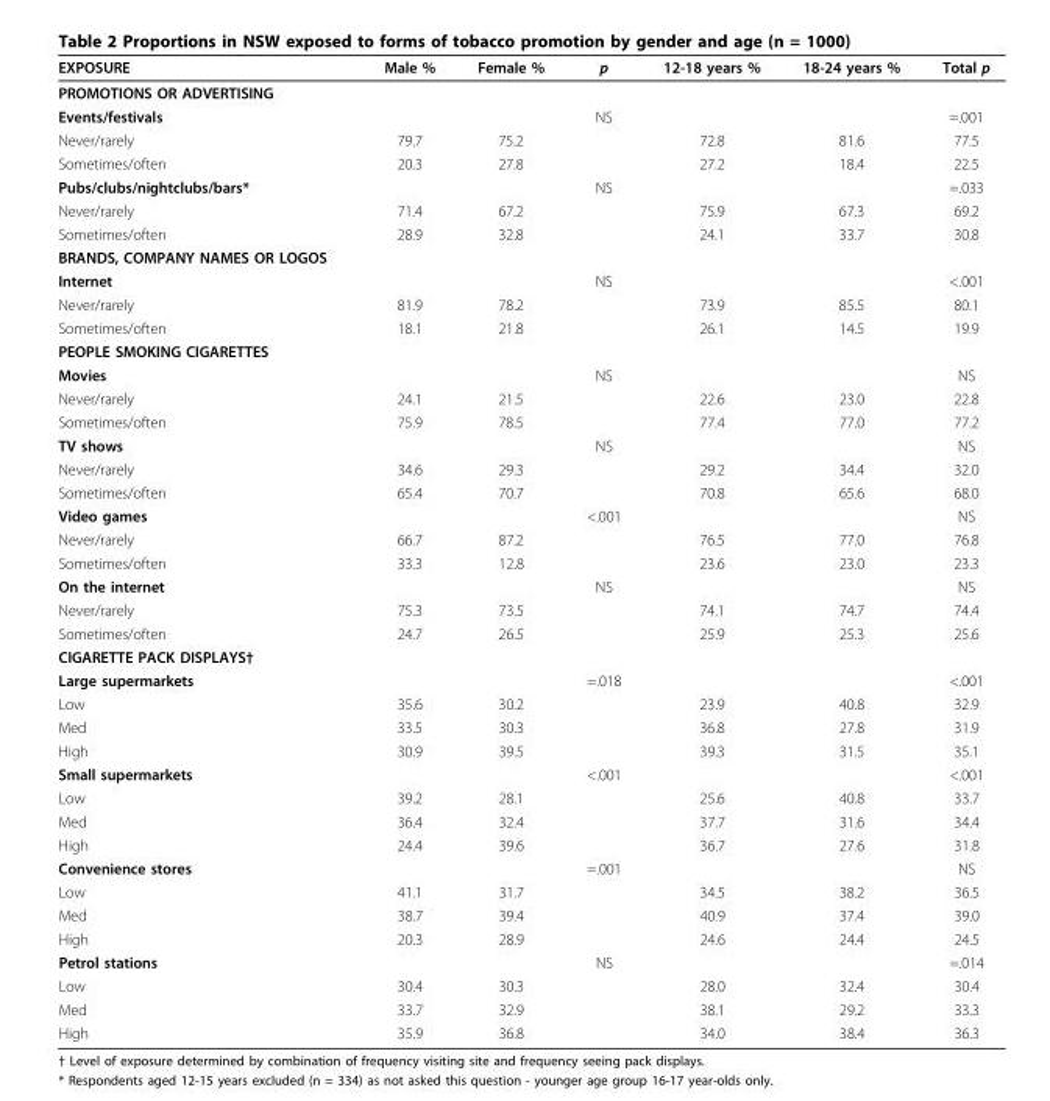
<table><thead><tr><td>EXPOSURE</td><td>Male %</td><td>Female %</td><td>p</td><td>12-18 years %</td><td>18-24 years %</td><td>Total p</td></tr></thead><tbody><tr><td colspan="7">PROMOTIONS OR ADVERTISING</td></tr><tr><td>Events/festivals</td><td></td><td></td><td>NS</td><td></td><td></td><td>=.001</td></tr><tr><td>Never/rarely</td><td>79.7</td><td>75.2</td><td></td><td>72.8</td><td>81.6</td><td>77.5</td></tr><tr><td>Sometimes/often</td><td>20.3</td><td>27.8</td><td></td><td>27.2</td><td>18.4</td><td>22.5</td></tr><tr><td>Pubs/clubs/nightclubs/bars*</td><td></td><td></td><td>NS</td><td></td><td></td><td>=.033</td></tr><tr><td>Never/rarely</td><td>71.4</td><td>67.2</td><td></td><td>75.9</td><td>67.3</td><td>69.2</td></tr><tr><td>Sometimes/often</td><td>28.9</td><td>32.8</td><td></td><td>24.1</td><td>33.7</td><td>30.8</td></tr><tr><td colspan="7">BRANDS, COMPANY NAMES OR LOGOS</td></tr><tr><td>Internet</td><td></td><td></td><td>NS</td><td></td><td></td><td>&lt;.001</td></tr><tr><td>Never/rarely</td><td>81.9</td><td>78.2</td><td></td><td>73.9</td><td>85.5</td><td>80.1</td></tr><tr><td>Sometimes/often</td><td>18.1</td><td>21.8</td><td></td><td>26.1</td><td>14.5</td><td>19.9</td></tr><tr><td colspan="7">PEOPLE SMOKING CIGARETTES</td></tr><tr><td>Movies</td><td></td><td></td><td>NS</td><td></td><td></td><td>NS</td></tr><tr><td>Never/rarely</td><td>24.1</td><td>21.5</td><td></td><td>22.6</td><td>23.0</td><td>22.8</td></tr><tr><td>Sometimes/often</td><td>75.9</td><td>78.5</td><td></td><td>77.4</td><td>77.0</td><td>77.2</td></tr><tr><td>TV shows</td><td></td><td></td><td>NS</td><td></td><td></td><td>NS</td></tr><tr><td>Never/rarely</td><td>34.6</td><td>29.3</td><td></td><td>29.2</td><td>34.4</td><td>32.0</td></tr><tr><td>Sometimes/often</td><td>65.4</td><td>70.7</td><td></td><td>70.8</td><td>65.6</td><td>68.0</td></tr><tr><td>Video games</td><td></td><td></td><td>&lt;.001</td><td></td><td></td><td>NS</td></tr><tr><td>Never/rarely</td><td>66.7</td><td>87.2</td><td></td><td>76.5</td><td>77.0</td><td>76.8</td></tr><tr><td>Sometimes/often</td><td>33.3</td><td>12.8</td><td></td><td>23.6</td><td>23.0</td><td>23.3</td></tr><tr><td>On the internet</td><td></td><td></td><td>NS</td><td></td><td></td><td>NS</td></tr><tr><td>Never/rarely</td><td>75.3</td><td>73.5</td><td></td><td>74.1</td><td>74.7</td><td>74.4</td></tr><tr><td>Sometimes/often</td><td>24.7</td><td>26.5</td><td></td><td>25.9</td><td>25.3</td><td>25.6</td></tr><tr><td colspan="7">CIGARETTE PACK DISPLAYS†</td></tr><tr><td>Large supermarkets</td><td></td><td></td><td>=.018</td><td></td><td></td><td>&lt;.001</td></tr><tr><td>Low</td><td>35.6</td><td>30.2</td><td></td><td>23.9</td><td>40.8</td><td>32.9</td></tr><tr><td>Med</td><td>33.5</td><td>30.3</td><td></td><td>36.8</td><td>27.8</td><td>31.9</td></tr><tr><td>High</td><td>30.9</td><td>39.5</td><td></td><td>39.3</td><td>31.5</td><td>35.1</td></tr><tr><td>Small supermarkets</td><td></td><td></td><td>&lt;.001</td><td></td><td></td><td>&lt;.001</td></tr><tr><td>Low</td><td>39.2</td><td>28.1</td><td></td><td>25.6</td><td>40.8</td><td>33.7</td></tr><tr><td>Med</td><td>36.4</td><td>32.4</td><td></td><td>37.7</td><td>31.6</td><td>34.4</td></tr><tr><td>High</td><td>24.4</td><td>39.6</td><td></td><td>36.7</td><td>27.6</td><td>31.8</td></tr><tr><td>Convenience stores</td><td></td><td></td><td>=.001</td><td></td><td></td><td>NS</td></tr><tr><td>Low</td><td>41.1</td><td>31.7</td><td></td><td>34.5</td><td>38.2</td><td>36.5</td></tr><tr><td>Med</td><td>38.7</td><td>39.4</td><td></td><td>40.9</td><td>37.4</td><td>39.0</td></tr><tr><td>High</td><td>20.3</td><td>28.9</td><td></td><td>24.6</td><td>24.4</td><td>24.5</td></tr><tr><td>Petrol stations</td><td></td><td></td><td>NS</td><td></td><td></td><td>=.014</td></tr><tr><td>Low</td><td>30.4</td><td>30.3</td><td></td><td>28.0</td><td>32.4</td><td>30.4</td></tr><tr><td>Med</td><td>33.7</td><td>32.9</td><td></td><td>38.1</td><td>29.2</td><td>33.3</td></tr><tr><td>High</td><td>35.9</td><td>36.8</td><td></td><td>34.0</td><td>38.4</td><td>36.3</td></tr></tbody></table>